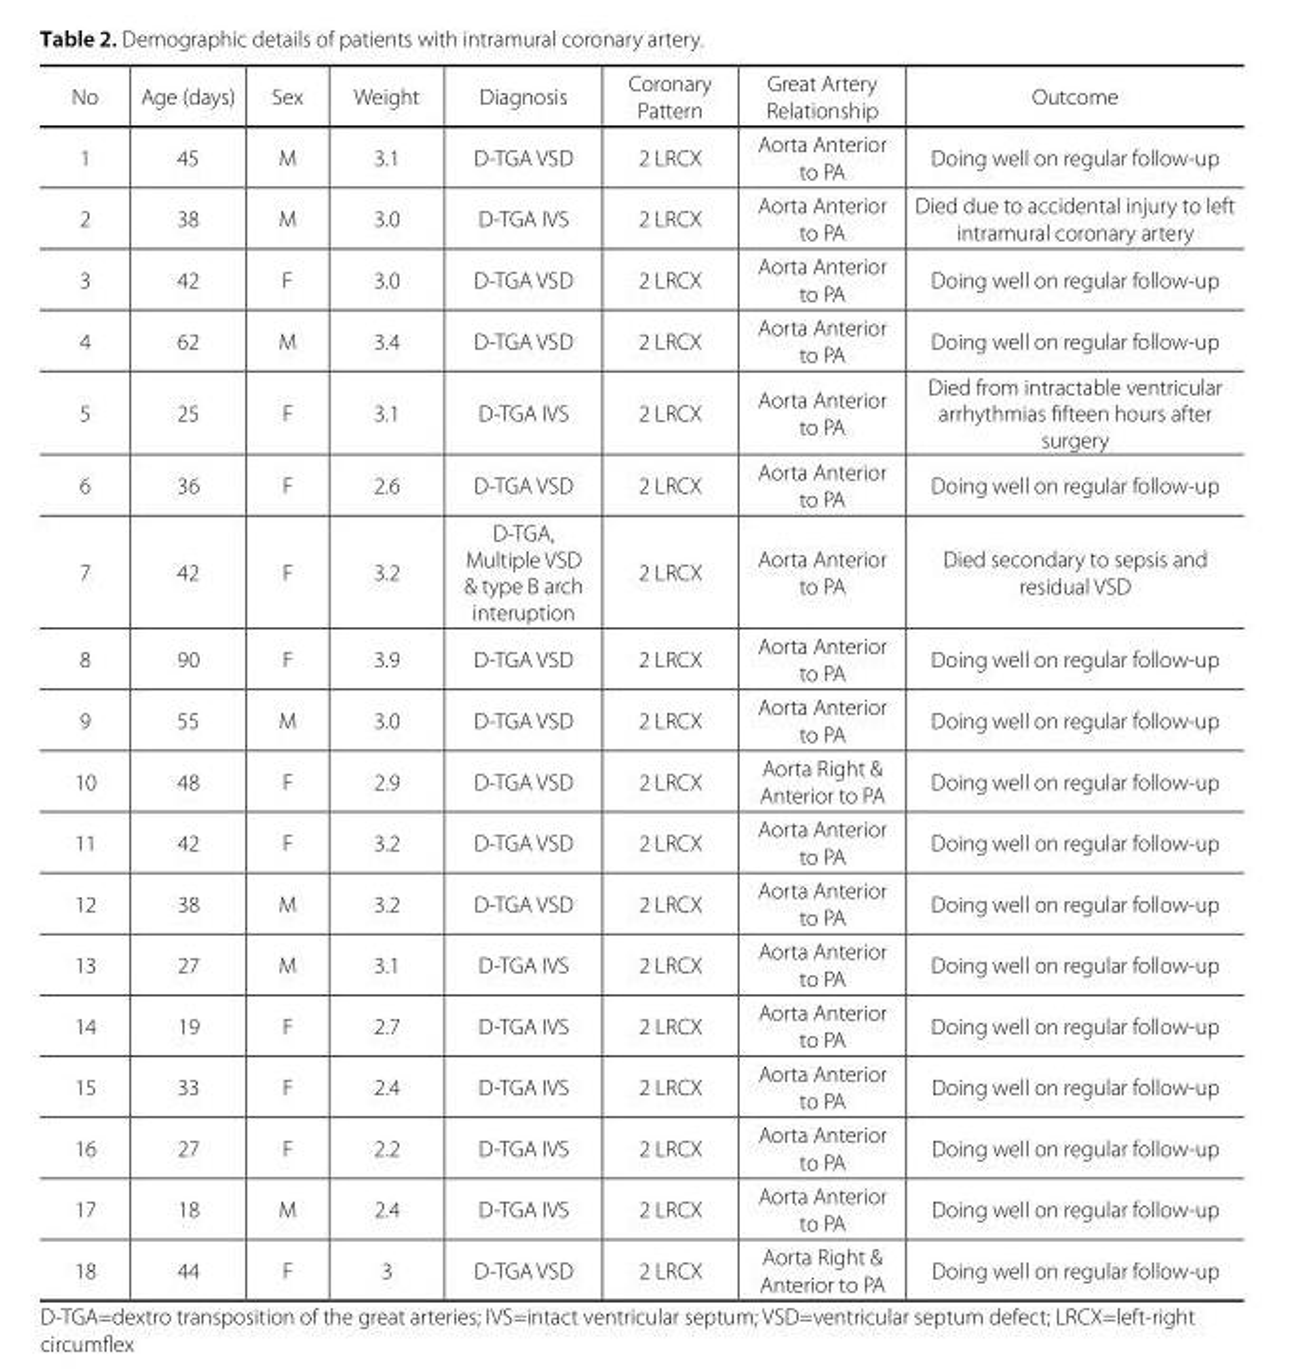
<table><thead><tr><td>No</td><td>Age (days)</td><td>Sex</td><td>Weight</td><td>Diagnosis</td><td>Coronary Pattern</td><td>Great Artery Relationship</td><td>Outcome</td></tr></thead><tbody><tr><td>1</td><td>45</td><td>M</td><td>3.1</td><td>D-TGA VSD</td><td>2 LRCX</td><td>Aorta Anterior to PA</td><td>Doing well on regular follow-up</td></tr><tr><td>2</td><td>38</td><td>M</td><td>3.0</td><td>D-TGA IVS</td><td>2 LRCX</td><td>Aorta Anterior to PA</td><td>Died due to accidental injury to left intramural coronary artery</td></tr><tr><td>3</td><td>42</td><td>F</td><td>3.0</td><td>D-TGA VSD</td><td>2 LRCX</td><td>Aorta Anterior to PA</td><td>Doing well on regular follow-up</td></tr><tr><td>4</td><td>62</td><td>M</td><td>3.4</td><td>D-TGA VSD</td><td>2 LRCX</td><td>Aorta Anterior to PA</td><td>Doing well on regular follow-up</td></tr><tr><td>5</td><td>25</td><td>F</td><td>3.1</td><td>D-TGA IVS</td><td>2 LRCX</td><td>Aorta Anterior to PA</td><td>Died from intractable ventricular arrhythmias fifteen hours after surgery</td></tr><tr><td>6</td><td>36</td><td>F</td><td>2.6</td><td>D-TGA VSD</td><td>2 LRCX</td><td>Aorta Anterior to PA</td><td>Doing well on regular follow-up</td></tr><tr><td>7</td><td>42</td><td>F</td><td>3.2</td><td>D-TGA, Multiple VSD &amp; type B arch interuption</td><td>2 LRCX</td><td>Aorta Anterior to PA</td><td>Died secondary to sepsis and residual VSD</td></tr><tr><td>8</td><td>90</td><td>F</td><td>3.9</td><td>D-TGA VSD</td><td>2 LRCX</td><td>Aorta Anterior to PA</td><td>Doing well on regular follow-up</td></tr><tr><td>9</td><td>55</td><td>M</td><td>3.0</td><td>D-TGA VSD</td><td>2 LRCX</td><td>Aorta Anterior to PA</td><td>Doing well on regular follow-up</td></tr><tr><td>10</td><td>48</td><td>F</td><td>2.9</td><td>D-TGA VSD</td><td>2 LRCX</td><td>Aorta Right &amp; Anterior to PA</td><td>Doing well on regular follow-up</td></tr><tr><td>11</td><td>42</td><td>F</td><td>3.2</td><td>D-TGA VSD</td><td>2 LRCX</td><td>Aorta Anterior to PA</td><td>Doing well on regular follow-up</td></tr><tr><td>12</td><td>38</td><td>M</td><td>3.2</td><td>D-TGA VSD</td><td>2 LRCX</td><td>Aorta Anterior to PA</td><td>Doing well on regular follow-up</td></tr><tr><td>13</td><td>27</td><td>M</td><td>3.1</td><td>D-TGA IVS</td><td>2 LRCX</td><td>Aorta Anterior to PA</td><td>Doing well on regular follow-up</td></tr><tr><td>14</td><td>19</td><td>F</td><td>2.7</td><td>D-TGA IVS</td><td>2 LRCX</td><td>Aorta Anterior to PA</td><td>Doing well on regular follow-up</td></tr><tr><td>15</td><td>33</td><td>F</td><td>2.4</td><td>D-TGA IVS</td><td>2 LRCX</td><td>Aorta Anterior to PA</td><td>Doing well on regular follow-up</td></tr><tr><td>16</td><td>27</td><td>F</td><td>2.2</td><td>D-TGA IVS</td><td>2 LRCX</td><td>Aorta Anterior to PA</td><td>Doing well on regular follow-up</td></tr><tr><td>17</td><td>18</td><td>M</td><td>2.4</td><td>D-TGA IVS</td><td>2 LRCX</td><td>Aorta Anterior to PA</td><td>Doing well on regular follow-up</td></tr><tr><td>18</td><td>44</td><td>F</td><td>3</td><td>D-TGA VSD</td><td>2 LRCX</td><td>Aorta Right &amp; Anterior to PA</td><td>Doing well on regular follow-up</td></tr></tbody></table>